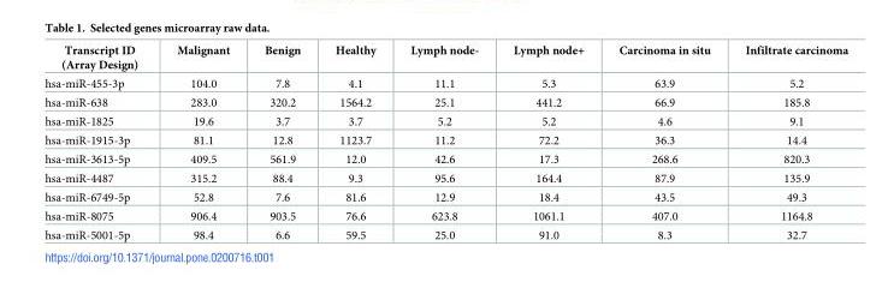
<table><thead><tr><td>Transcript ID (Array Design)</td><td>Malignant</td><td>Benign</td><td>Healthy</td><td>Lymph node-</td><td>Lymph node+</td><td>Carcinoma in situ</td><td>Infiltrate carcinoma</td></tr></thead><tbody><tr><td>hsa-miR-455-3p</td><td>104.0</td><td>7.8</td><td>4.1</td><td>11.1</td><td>5.3</td><td>63.9</td><td>5.2</td></tr><tr><td>hsa-miR-638</td><td>283.0</td><td>320.2</td><td>1564.2</td><td>25.1</td><td>441.2</td><td>66.9</td><td>185.8</td></tr><tr><td>hsa-miR-1825</td><td>19.6</td><td>3.7</td><td>3.7</td><td>5.2</td><td>5.2</td><td>4.6</td><td>9.1</td></tr><tr><td>hsa-miR-1915-3p</td><td>81.1</td><td>12.8</td><td>1123.7</td><td>11.2</td><td>72.2</td><td>36.3</td><td>14.4</td></tr><tr><td>hsa-miR-3613-5p</td><td>409.5</td><td>561.9</td><td>12.0</td><td>42.6</td><td>17.3</td><td>268.6</td><td>820.3</td></tr><tr><td>hsa-miR-4487</td><td>315.2</td><td>88.4</td><td>9.3</td><td>95.6</td><td>164.4</td><td>87.9</td><td>135.9</td></tr><tr><td>hsa-miR-6749-5p</td><td>52.8</td><td>7.6</td><td>81.6</td><td>12.9</td><td>18.4</td><td>43.5</td><td>49.3</td></tr><tr><td>hsa-miR-8075</td><td>906.4</td><td>903.5</td><td>76.6</td><td>623.8</td><td>1061.1</td><td>407.0</td><td>1164.8</td></tr><tr><td>hsa-miR-5001-5p</td><td>98.4</td><td>6.6</td><td>59.5</td><td>25.0</td><td>91.0</td><td>8.3</td><td>32.7</td></tr></tbody></table>